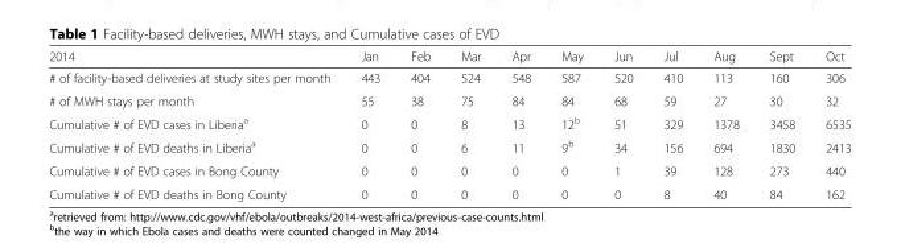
<table><thead><tr><td>2014</td><td>Jan</td><td>Feb</td><td>Mar</td><td>Apr</td><td>May</td><td>Jun</td><td>Jul</td><td>Aug</td><td>Sept</td><td>Oct</td></tr></thead><tbody><tr><td># of facility-based deliveries at study sites per month</td><td>443</td><td>404</td><td>524</td><td>548</td><td>587</td><td>520</td><td>410</td><td>113</td><td>160</td><td>306</td></tr><tr><td># of MWH stays per month</td><td>55</td><td>38</td><td>75</td><td>84</td><td>84</td><td>68</td><td>59</td><td>27</td><td>30</td><td>32</td></tr><tr><td>Cumulative # of EVD cases in Liberia<sup>a</sup></td><td>0</td><td>0</td><td>8</td><td>13</td><td>12<sup>b</sup></td><td>51</td><td>329</td><td>1378</td><td>3458</td><td>6535</td></tr><tr><td>Cumulative # of EVD deaths in Liberia<sup>a</sup></td><td>0</td><td>0</td><td>6</td><td>11</td><td>9<sup>b</sup></td><td>34</td><td>156</td><td>694</td><td>1830</td><td>2413</td></tr><tr><td>Cumulative # of EVD cases in Bong County</td><td>0</td><td>0</td><td>0</td><td>0</td><td>0</td><td>1</td><td>39</td><td>128</td><td>273</td><td>440</td></tr><tr><td>Cumulative # of EVD deaths in Bong County</td><td>0</td><td>0</td><td>0</td><td>0</td><td>0</td><td>0</td><td>8</td><td>40</td><td>84</td><td>162</td></tr></tbody></table>